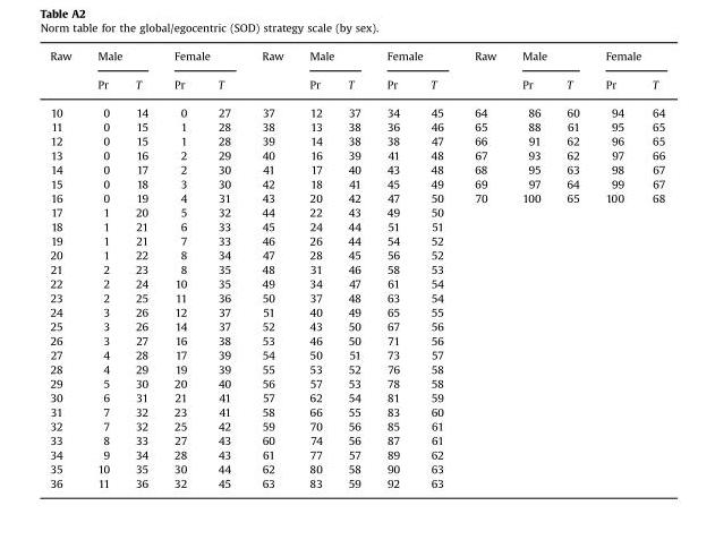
<table><thead><tr><td rowspan="2">Raw</td><td colspan="2">Male</td><td colspan="2">Female</td><td rowspan="2">Raw</td><td colspan="2">Male</td><td colspan="2">Female</td><td rowspan="2">Raw</td><td colspan="2">Male</td><td colspan="2">Female</td></tr><tr><td>Pr</td><td>T</td><td>Pr</td><td>T</td><td>Pr</td><td>T</td><td>Pr</td><td>T</td><td>Pr</td><td>T</td><td>Pr</td><td>T</td></tr></thead><tbody><tr><td>10</td><td>0</td><td>14</td><td>0</td><td>27</td><td>37</td><td>12</td><td>37</td><td>34</td><td>45</td><td>64</td><td>86</td><td>60</td><td>94</td><td>64</td></tr><tr><td>11</td><td>0</td><td>15</td><td>1</td><td>28</td><td>38</td><td>13</td><td>38</td><td>36</td><td>46</td><td>65</td><td>88</td><td>61</td><td>95</td><td>65</td></tr><tr><td>12</td><td>0</td><td>15</td><td>1</td><td>28</td><td>39</td><td>14</td><td>38</td><td>38</td><td>47</td><td>66</td><td>91</td><td>62</td><td>96</td><td>65</td></tr><tr><td>13</td><td>0</td><td>16</td><td>2</td><td>29</td><td>40</td><td>16</td><td>39</td><td>41</td><td>48</td><td>67</td><td>93</td><td>62</td><td>97</td><td>66</td></tr><tr><td>14</td><td>0</td><td>17</td><td>2</td><td>30</td><td>41</td><td>17</td><td>40</td><td>43</td><td>48</td><td>68</td><td>95</td><td>63</td><td>98</td><td>67</td></tr><tr><td>15</td><td>0</td><td>18</td><td>3</td><td>30</td><td>42</td><td>18</td><td>41</td><td>45</td><td>49</td><td>69</td><td>97</td><td>64</td><td>99</td><td>67</td></tr><tr><td>16</td><td>0</td><td>19</td><td>4</td><td>31</td><td>43</td><td>20</td><td>42</td><td>47</td><td>50</td><td>70</td><td>100</td><td>65</td><td>100</td><td>68</td></tr><tr><td>17</td><td>1</td><td>20</td><td>5</td><td>32</td><td>44</td><td>22</td><td>43</td><td>49</td><td>50</td><td></td><td></td><td></td><td></td><td></td></tr><tr><td>18</td><td>1</td><td>21</td><td>6</td><td>33</td><td>45</td><td>24</td><td>44</td><td>51</td><td>51</td><td></td><td></td><td></td><td></td><td></td></tr><tr><td>19</td><td>1</td><td>21</td><td>7</td><td>33</td><td>46</td><td>26</td><td>44</td><td>54</td><td>52</td><td></td><td></td><td></td><td></td><td></td></tr><tr><td>20</td><td>1</td><td>22</td><td>8</td><td>34</td><td>47</td><td>28</td><td>45</td><td>56</td><td>52</td><td></td><td></td><td></td><td></td><td></td></tr><tr><td>21</td><td>2</td><td>23</td><td>8</td><td>35</td><td>48</td><td>31</td><td>46</td><td>58</td><td>53</td><td></td><td></td><td></td><td></td><td></td></tr><tr><td>22</td><td>2</td><td>24</td><td>10</td><td>35</td><td>49</td><td>34</td><td>47</td><td>61</td><td>54</td><td></td><td></td><td></td><td></td><td></td></tr><tr><td>23</td><td>2</td><td>25</td><td>11</td><td>36</td><td>50</td><td>37</td><td>48</td><td>63</td><td>54</td><td></td><td></td><td></td><td></td><td></td></tr><tr><td>24</td><td>3</td><td>26</td><td>12</td><td>37</td><td>51</td><td>40</td><td>49</td><td>65</td><td>55</td><td></td><td></td><td></td><td></td><td></td></tr><tr><td>25</td><td>3</td><td>26</td><td>14</td><td>37</td><td>52</td><td>43</td><td>50</td><td>67</td><td>56</td><td></td><td></td><td></td><td></td><td></td></tr><tr><td>26</td><td>3</td><td>27</td><td>16</td><td>38</td><td>53</td><td>46</td><td>50</td><td>71</td><td>56</td><td></td><td></td><td></td><td></td><td></td></tr><tr><td>27</td><td>4</td><td>28</td><td>17</td><td>39</td><td>54</td><td>50</td><td>51</td><td>73</td><td>57</td><td></td><td></td><td></td><td></td><td></td></tr><tr><td>28</td><td>4</td><td>29</td><td>19</td><td>39</td><td>55</td><td>53</td><td>52</td><td>76</td><td>58</td><td></td><td></td><td></td><td></td><td></td></tr><tr><td>29</td><td>5</td><td>30</td><td>20</td><td>40</td><td>56</td><td>57</td><td>53</td><td>78</td><td>58</td><td></td><td></td><td></td><td></td><td></td></tr><tr><td>30</td><td>6</td><td>31</td><td>21</td><td>41</td><td>57</td><td>62</td><td>54</td><td>81</td><td>59</td><td></td><td></td><td></td><td></td><td></td></tr><tr><td>31</td><td>7</td><td>32</td><td>23</td><td>41</td><td>58</td><td>66</td><td>55</td><td>83</td><td>60</td><td></td><td></td><td></td><td></td><td></td></tr><tr><td>32</td><td>7</td><td>32</td><td>25</td><td>42</td><td>59</td><td>70</td><td>56</td><td>85</td><td>61</td><td></td><td></td><td></td><td></td><td></td></tr><tr><td>33</td><td>8</td><td>33</td><td>27</td><td>43</td><td>60</td><td>74</td><td>56</td><td>87</td><td>61</td><td></td><td></td><td></td><td></td><td></td></tr><tr><td>34</td><td>9</td><td>34</td><td>28</td><td>43</td><td>61</td><td>77</td><td>57</td><td>89</td><td>62</td><td></td><td></td><td></td><td></td><td></td></tr><tr><td>35</td><td>10</td><td>35</td><td>30</td><td>44</td><td>62</td><td>80</td><td>58</td><td>90</td><td>63</td><td></td><td></td><td></td><td></td><td></td></tr><tr><td>36</td><td>11</td><td>36</td><td>32</td><td>45</td><td>63</td><td>83</td><td>59</td><td>92</td><td>63</td><td></td><td></td><td></td><td></td><td></td></tr></tbody></table>